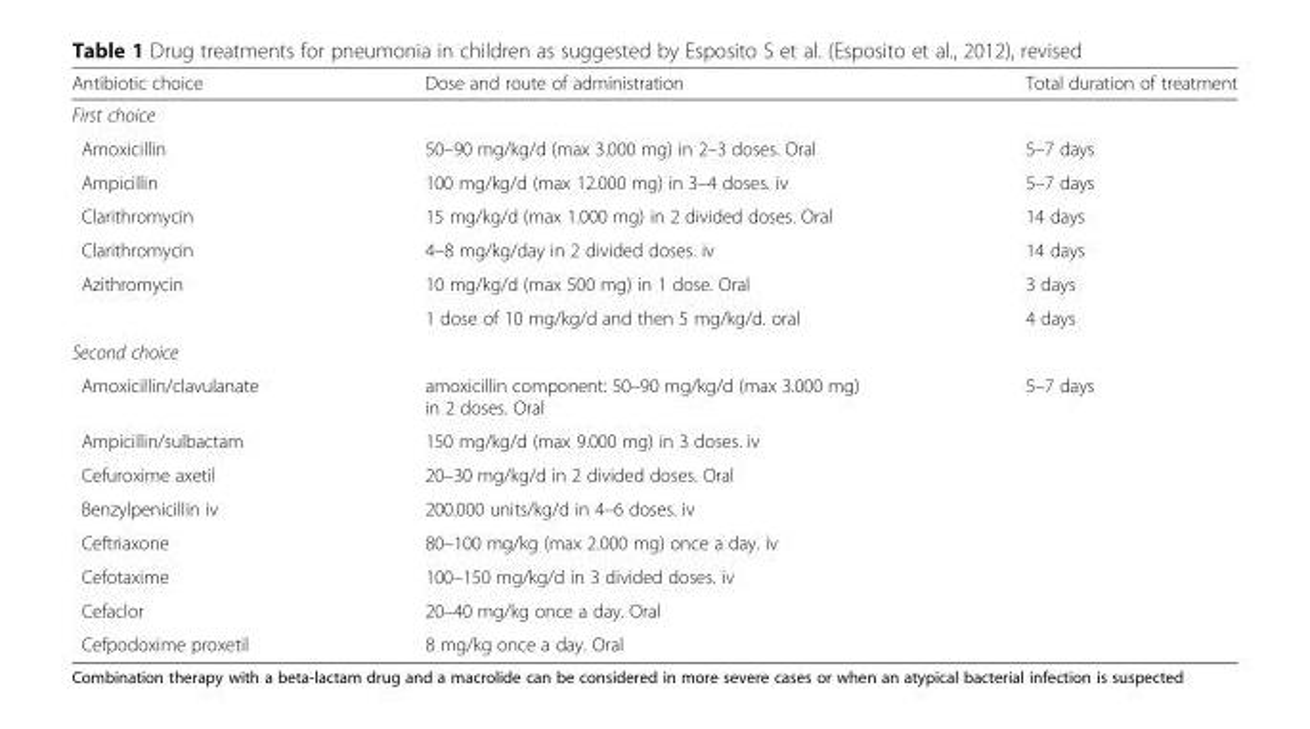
<table><thead><tr><td>Antibiotic choice</td><td>Dose and route of administration</td><td>Total duration of treatment</td></tr></thead><tbody><tr><td colspan="3">First choice</td></tr><tr><td>Amoxicillin</td><td>50–90 mg/kg/d (max 3.000 mg) in 2–3 doses. Oral</td><td>5–7 days</td></tr><tr><td>Ampicillin</td><td>100 mg/kg/d (max 12.000 mg) in 3–4 doses. iv</td><td>5–7 days</td></tr><tr><td>Clarithromycin</td><td>15 mg/kg/d (max 1.000 mg) in 2 divided doses. Oral</td><td>14 days</td></tr><tr><td>Clarithromycin</td><td>4–8 mg/kg/day in 2 divided doses. iv</td><td>14 days</td></tr><tr><td rowspan="2">Azithromycin</td><td>10 mg/kg/d (max 500 mg) in 1 dose. Oral</td><td>3 days</td></tr><tr><td>1 dose of 10 mg/kg/d and then 5 mg/kg/d. oral</td><td>4 days</td></tr><tr><td colspan="3">Second choice</td></tr><tr><td>Amoxicillin/clavulanate</td><td>amoxicillin component: 50–90 mg/kg/d (max 3.000 mg) in 2 doses. Oral</td><td rowspan="8">5–7 days</td></tr><tr><td>Ampicillin/sulbactam</td><td>150 mg/kg/d (max 9.000 mg) in 3 doses. iv</td></tr><tr><td>Cefuroxime axetil</td><td>20–30 mg/kg/d in 2 divided doses. Oral</td></tr><tr><td>Benzylpenicillin iv</td><td>200.000 units/kg/d in 4–6 doses. iv</td></tr><tr><td>Ceftriaxone</td><td>80–100 mg/kg (max 2.000 mg) once a day. iv</td></tr><tr><td>Cefotaxime</td><td>100–150 mg/kg/d in 3 divided doses. iv</td></tr><tr><td>Cefaclor</td><td>20–40 mg/kg once a day. Oral</td></tr><tr><td>Cefpodoxime proxetil</td><td>8 mg/kg once a day. Oral</td></tr></tbody></table>